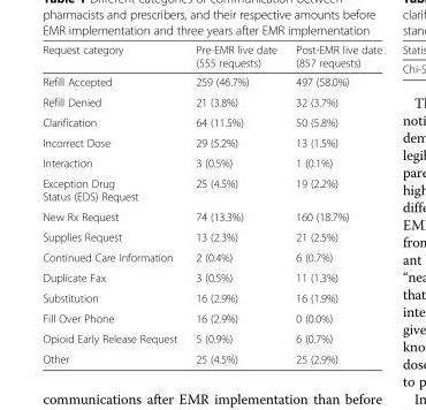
<table><thead><tr><td>Request category</td><td>Pre-EMR live date (555 requests)</td><td>Post-EMR live date (857 requests)</td></tr></thead><tbody><tr><td>Refill Accepted</td><td>259 (46.7%)</td><td>497 (58.0%)</td></tr><tr><td>Refill Denied</td><td>21 (3.8%)</td><td>32 (3.7%)</td></tr><tr><td>Clarification</td><td>64 (11.5%)</td><td>50 (5.8%)</td></tr><tr><td>Incorrect Dose</td><td>29 (5.2%)</td><td>13 (1.5%)</td></tr><tr><td>Interaction</td><td>3 (0.5%)</td><td>1 (0.1%)</td></tr><tr><td>Exception Drug Status (EDS) Request</td><td>25 (4.5%)</td><td>19 (2.2%)</td></tr><tr><td>New Rx Request</td><td>74 (13.3%)</td><td>160 (18.7%)</td></tr><tr><td>Supplies Request</td><td>13 (2.3%)</td><td>21 (2.5%)</td></tr><tr><td>Continued Care Information</td><td>2 (0.4%)</td><td>6 (0.7%)</td></tr><tr><td>Duplicate Fax</td><td>3 (0.5%)</td><td>11 (1.3%)</td></tr><tr><td>Substitution</td><td>16 (2.9%)</td><td>16 (1.9%)</td></tr><tr><td>Fill Over Phone</td><td>16 (2.9%)</td><td>0 (0.0%)</td></tr><tr><td>Opioid Early Release Request</td><td>5 (0.9%)</td><td>6 (0.7%)</td></tr><tr><td>Other</td><td>25 (4.5%)</td><td>25 (2.9%)</td></tr></tbody></table>